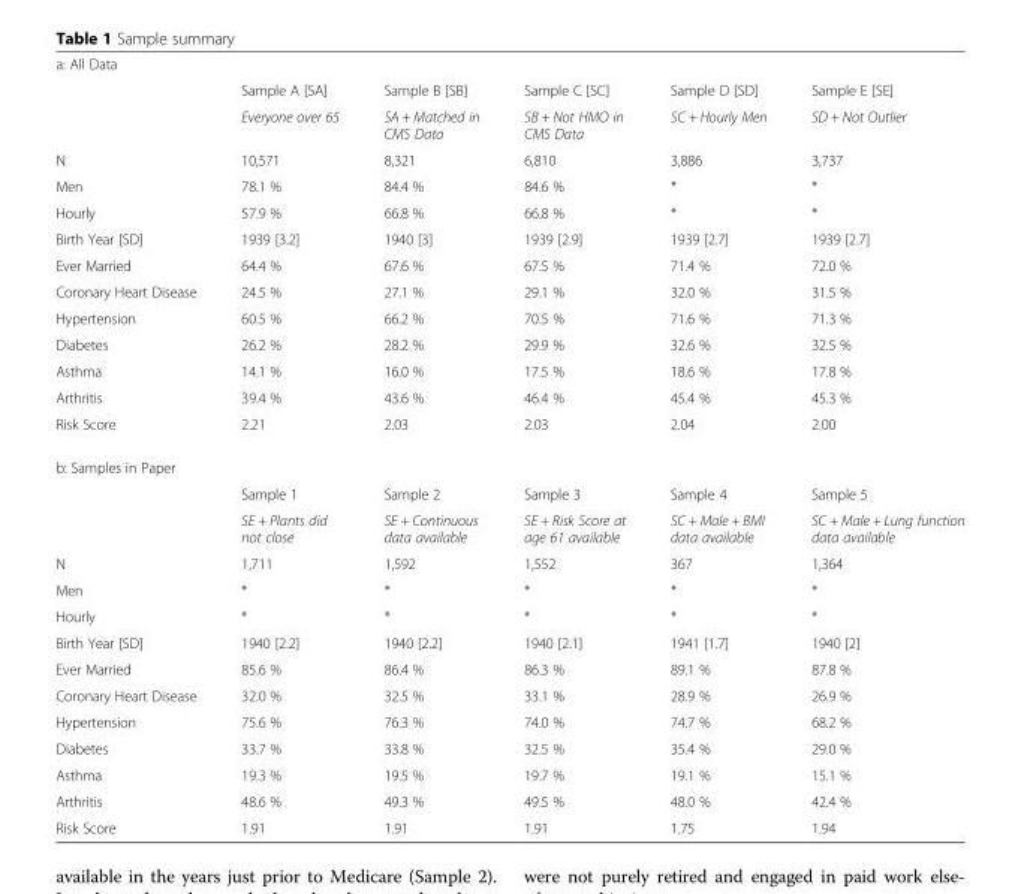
<table><tbody><tr><td colspan="6">a: All Data</td></tr><tr><td></td><td>Sample A [SA]</td><td>Sample B [SB]</td><td>Sample C [SC]</td><td>Sample D [SD]</td><td>Sample E [SE]</td></tr><tr><td></td><td>Everyone over 65</td><td>SA + Matched in CMS Data</td><td>SB + Not HMO in CMS Data</td><td>SC + Hourly Men</td><td>SD + Not Outlier</td></tr><tr><td>N</td><td>10,571</td><td>8,321</td><td>6,810</td><td>3,886</td><td>3,737</td></tr><tr><td>Men</td><td>78.1 %</td><td>84.4 %</td><td>84.6 %</td><td>*</td><td>*</td></tr><tr><td>Hourly</td><td>57.9 %</td><td>66.8 %</td><td>66.8 %</td><td>*</td><td>*</td></tr><tr><td>Birth Year [SD]</td><td>1939 [3.2]</td><td>1940 [3]</td><td>1939 [2.9]</td><td>1939 [2.7]</td><td>1939 [2.7]</td></tr><tr><td>Ever Married</td><td>64.4 %</td><td>67.6 %</td><td>67.5 %</td><td>71.4 %</td><td>72.0 %</td></tr><tr><td>Coronary Heart Disease</td><td>24.5 %</td><td>27.1 %</td><td>29.1 %</td><td>32.0 %</td><td>31.5 %</td></tr><tr><td>Hypertension</td><td>60.5 %</td><td>66.2 %</td><td>70.5 %</td><td>71.6 %</td><td>71.3 %</td></tr><tr><td>Diabetes</td><td>26.2 %</td><td>28.2 %</td><td>29.9 %</td><td>32.6 %</td><td>32.5 %</td></tr><tr><td>Asthma</td><td>14.1 %</td><td>16.0 %</td><td>17.5 %</td><td>18.6 %</td><td>17.8 %</td></tr><tr><td>Arthritis</td><td>39.4 %</td><td>43.6 %</td><td>46.4 %</td><td>45.4 %</td><td>45.3 %</td></tr><tr><td>Risk Score</td><td>2.21</td><td>2.03</td><td>2.03</td><td>2.04</td><td>2.00</td></tr><tr><td colspan="6">b: Samples in Paper</td></tr><tr><td></td><td>Sample 1</td><td>Sample 2</td><td>Sample 3</td><td>Sample 4</td><td>Sample 5</td></tr><tr><td></td><td>SE + Plants did not close</td><td>SE + Continuous data available</td><td>SE + Risk Score at age 61 available</td><td>SC + Male + BMI data available</td><td>SC + Male + Lung function data available</td></tr><tr><td>N</td><td>1,711</td><td>1,592</td><td>1,552</td><td>367</td><td>1,364</td></tr><tr><td>Men</td><td>*</td><td>*</td><td>*</td><td>*</td><td>*</td></tr><tr><td>Hourly</td><td>*</td><td>*</td><td>*</td><td>*</td><td>*</td></tr><tr><td>Birth Year [SD]</td><td>1940 [2.2]</td><td>1940 [2.2]</td><td>1940 [2.1]</td><td>1941 [1.7]</td><td>1940 [2]</td></tr><tr><td>Ever Married</td><td>85.6 %</td><td>86.4 %</td><td>86.3 %</td><td>89.1 %</td><td>87.8 %</td></tr><tr><td>Coronary Heart Disease</td><td>32.0 %</td><td>32.5 %</td><td>33.1 %</td><td>28.9 %</td><td>26.9 %</td></tr><tr><td>Hypertension</td><td>75.6 %</td><td>76.3 %</td><td>74.0 %</td><td>74.7 %</td><td>68.2 %</td></tr><tr><td>Diabetes</td><td>33.7 %</td><td>33.8 %</td><td>32.5 %</td><td>35.4 %</td><td>29.0 %</td></tr><tr><td>Asthma</td><td>19.3 %</td><td>19.5 %</td><td>19.7 %</td><td>19.1 %</td><td>15.1 %</td></tr><tr><td>Arthritis</td><td>48.6 %</td><td>49.3 %</td><td>49.5 %</td><td>48.0 %</td><td>42.4 %</td></tr><tr><td>Risk Score</td><td>1.91</td><td>1.91</td><td>1.91</td><td>1.75</td><td>1.94</td></tr></tbody></table>